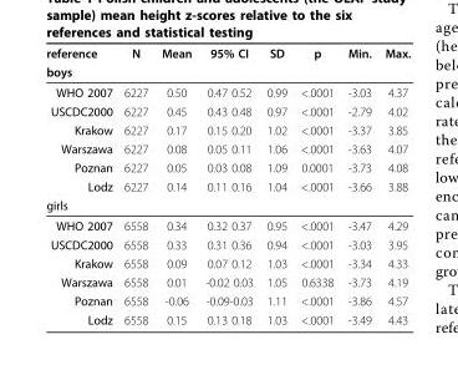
<table><thead><tr><td rowspan="2">reference boys</td><td rowspan="2">N</td><td rowspan="2">Mean</td><td rowspan="2">95% CI</td><td rowspan="2">SD</td><td rowspan="2">p</td><td rowspan="2">Min.</td><td rowspan="2">Max.</td></tr><tr></tr></thead><tbody><tr><td>WHO 2007</td><td>6227</td><td>0.50</td><td>0.47 0.52</td><td>0.99</td><td>&lt;.0001</td><td>-3.03</td><td>4.37</td></tr><tr><td>USCDC2000</td><td>6227</td><td>0.45</td><td>0.43 0.48</td><td>0.97</td><td>&lt;.0001</td><td>-2.79</td><td>4.02</td></tr><tr><td>Krakow</td><td>6227</td><td>0.17</td><td>0.15 0.20</td><td>1.02</td><td>&lt;.0001</td><td>-3.37</td><td>3.85</td></tr><tr><td>Warszawa</td><td>6227</td><td>0.08</td><td>0.05 0.11</td><td>1.06</td><td>&lt;.0001</td><td>-3.63</td><td>4.07</td></tr><tr><td>Poznan</td><td>6227</td><td>0.05</td><td>0.03 0.08</td><td>1.09</td><td>0.0001</td><td>-3.73</td><td>4.08</td></tr><tr><td>Lodz</td><td>6227</td><td>0.14</td><td>0.11 0.16</td><td>1.04</td><td>&lt;.0001</td><td>-3.66</td><td>3.88</td></tr><tr><td colspan="8">girls</td></tr><tr><td>WHO 2007</td><td>6558</td><td>0.34</td><td>0.32 0.37</td><td>0.95</td><td>&lt;.0001</td><td>-3.47</td><td>4.29</td></tr><tr><td>USCDC2000</td><td>6558</td><td>0.33</td><td>0.31 0.36</td><td>0.94</td><td>&lt;.0001</td><td>-3.03</td><td>3.95</td></tr><tr><td>Krakow</td><td>6558</td><td>0.09</td><td>0.07 0.12</td><td>1.03</td><td>&lt;.0001</td><td>-3.34</td><td>4.33</td></tr><tr><td>Warszawa</td><td>6558</td><td>0.01</td><td>-0.02 0.03</td><td>1.05</td><td>0.6338</td><td>-3.73</td><td>4.19</td></tr><tr><td>Poznan</td><td>6558</td><td>-0.06</td><td>-0.09-0.03</td><td>1.11</td><td>&lt;.0001</td><td>-3.86</td><td>4.57</td></tr><tr><td>Lodz</td><td>6558</td><td>0.15</td><td>0.13 0.18</td><td>1.03</td><td>&lt;.0001</td><td>-3.49</td><td>4.43</td></tr></tbody></table>